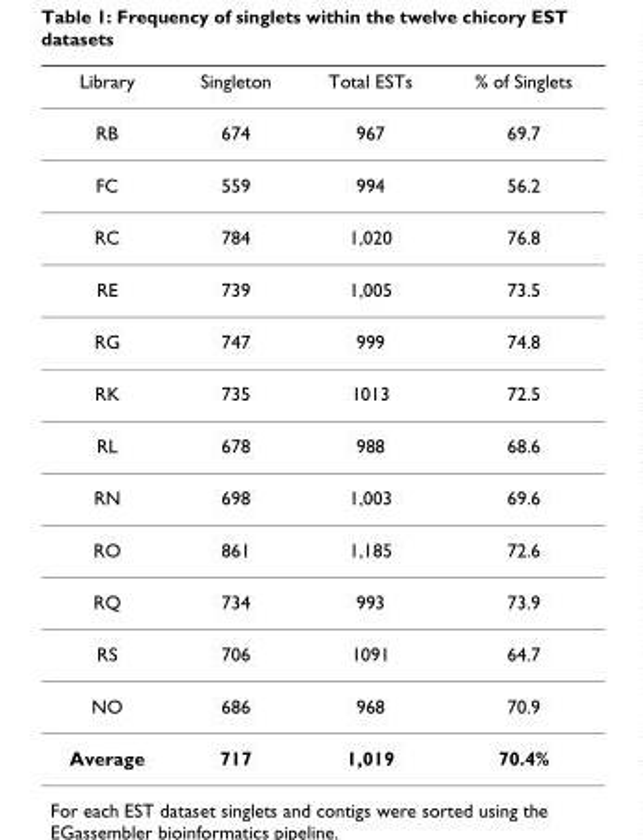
<table><thead><tr><td>Library</td><td>Singleton</td><td>Total ESTs</td><td>% of Singlets</td></tr></thead><tbody><tr><td>RB</td><td>674</td><td>967</td><td>69.7</td></tr><tr><td>FC</td><td>559</td><td>994</td><td>56.2</td></tr><tr><td>RC</td><td>784</td><td>1,020</td><td>76.8</td></tr><tr><td>RE</td><td>739</td><td>1,005</td><td>73.5</td></tr><tr><td>RG</td><td>747</td><td>999</td><td>74.8</td></tr><tr><td>RK</td><td>735</td><td>1013</td><td>72.5</td></tr><tr><td>RL</td><td>678</td><td>988</td><td>68.6</td></tr><tr><td>RN</td><td>698</td><td>1,003</td><td>69.6</td></tr><tr><td>RO</td><td>861</td><td>1,185</td><td>72.6</td></tr><tr><td>RQ</td><td>734</td><td>993</td><td>73.9</td></tr><tr><td>RS</td><td>706</td><td>1091</td><td>64.7</td></tr><tr><td>NO</td><td>686</td><td>968</td><td>70.9</td></tr><tr><td>Average</td><td>717</td><td>1,019</td><td>70.4%</td></tr></tbody></table>